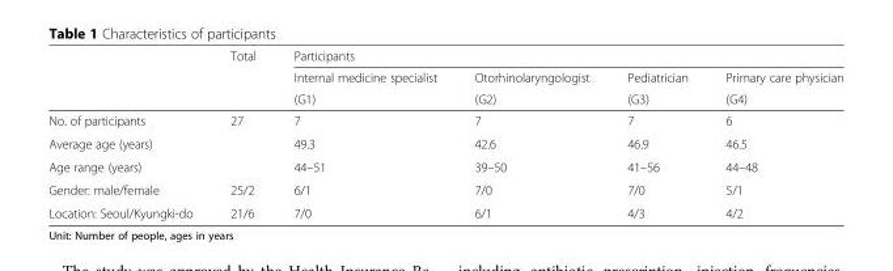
<table><thead><tr><td rowspan="3"></td><td rowspan="3">Total</td><td colspan="4">Participants</td></tr><tr><td rowspan="2">Internal medicine specialist (G1)</td><td rowspan="2">Otorhinolaryngologist (G2)</td><td rowspan="2">Pediatrician (G3)</td><td rowspan="2">Primary care physician (G4)</td></tr><tr></tr></thead><tbody><tr><td>No. of participants</td><td>27</td><td>7</td><td>7</td><td>7</td><td>6</td></tr><tr><td>Average age (years)</td><td></td><td>49.3</td><td>42.6</td><td>46.9</td><td>46.5</td></tr><tr><td>Age range (years)</td><td></td><td>44–51</td><td>39–50</td><td>41–56</td><td>44–48</td></tr><tr><td>Gender: male/female</td><td>25/2</td><td>6/1</td><td>7/0</td><td>7/0</td><td>5/1</td></tr><tr><td>Location: Seoul/Kyungki-do</td><td>21/6</td><td>7/0</td><td>6/1</td><td>4/3</td><td>4/2</td></tr></tbody></table>